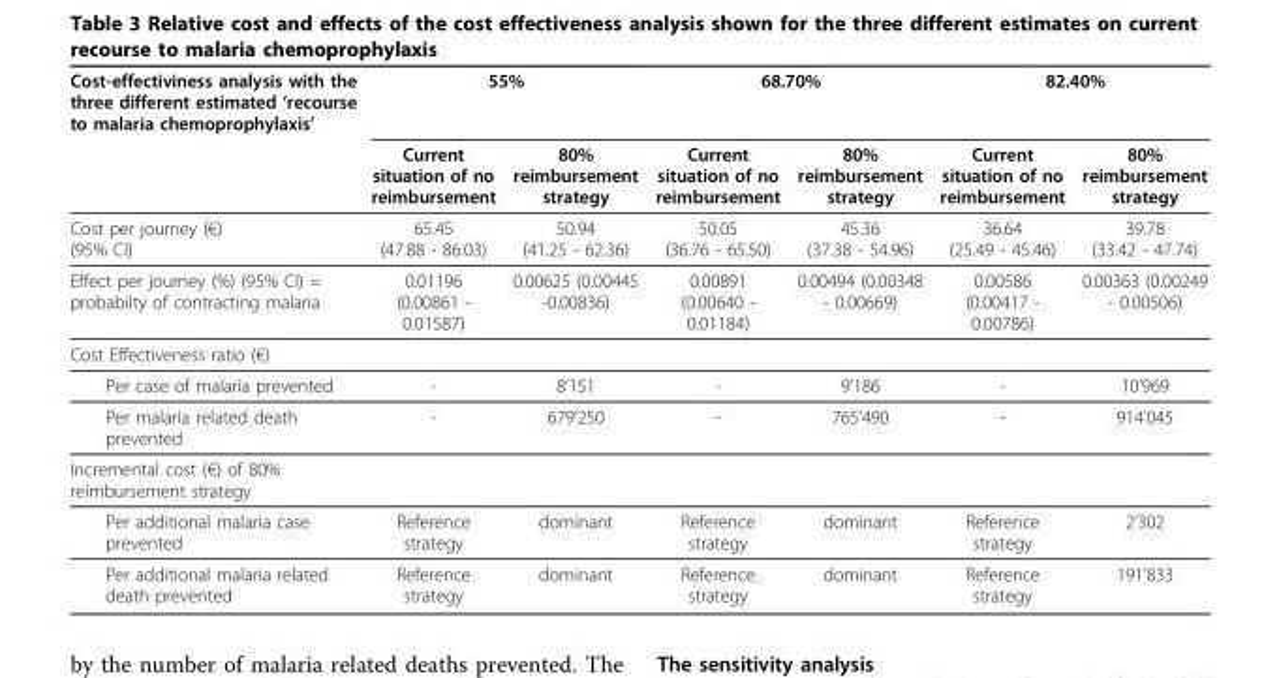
<table><thead><tr><td rowspan="2">Cost-effectiviness analysis with the three different estimated ‘recourse to malaria chemoprophylaxis’</td><td colspan="2">55%</td><td colspan="2">68.70%</td><td colspan="2">82.40%</td></tr><tr><td>Current situation of no reimbursement</td><td>80% reimbursement strategy</td><td>Current situation of no reimbursement</td><td>80% reimbursement strategy</td><td>Current situation of no reimbursement</td><td>80% reimbursement strategy</td></tr></thead><tbody><tr><td>Cost per journey (€) (95% CI)</td><td>65.45 (47.88 - 86.03)</td><td>50.94 (41.25 - 62.36)</td><td>50.05 (36.76 - 65.50)</td><td>45.36 (37.38 - 54.96)</td><td>36.64 (25.49 - 45.46)</td><td>39.78 (33.42 - 47.74)</td></tr><tr><td>Effect per journey (%) (95% CI) = probabilty of contracting malaria</td><td>0.01196 (0.00861 - 0.01587)</td><td>0.00625 (0.00445 -0.00836)</td><td>0.00891 (0.00640 - 0.01184)</td><td>0.00494 (0.00348 - 0.00669)</td><td>0.00586 (0.00417 - 0.00786)</td><td>0.00363 (0.00249 - 0.00506)</td></tr><tr><td colspan="7">Cost Effectiveness ratio (€)</td></tr><tr><td>Per case of malaria prevented</td><td>-</td><td>8’151</td><td>-</td><td>9’186</td><td>-</td><td>10’969</td></tr><tr><td>Per malaria related death prevented</td><td>-</td><td>679’250</td><td>-</td><td>765’490</td><td>-</td><td>914’045</td></tr><tr><td colspan="7">Incremental cost (€) of 80% reimbursement strategy</td></tr><tr><td>Per additional malaria case prevented</td><td>Reference strategy</td><td>dominant</td><td>Reference strategy</td><td>dominant</td><td>Reference strategy</td><td>2’302</td></tr><tr><td>Per additional malaria related death prevented</td><td>Reference strategy</td><td>dominant</td><td>Reference strategy</td><td>dominant</td><td>Reference strategy</td><td>191’833</td></tr></tbody></table>